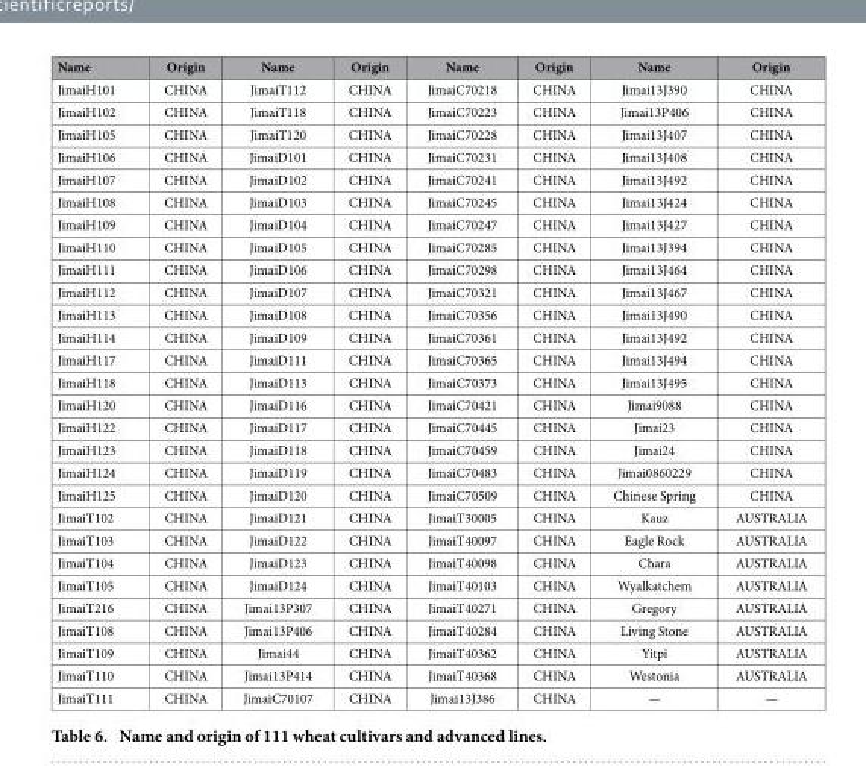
<table><thead><tr><td>Name</td><td>Origin</td><td>Name</td><td>Origin</td><td>Name</td><td>Origin</td><td>Name</td><td>Origin</td></tr></thead><tbody><tr><td>JimaiH101</td><td>CHINA</td><td>JimaiT112</td><td>CHINA</td><td>JimaiC70218</td><td>CHINA</td><td>Jimai13J390</td><td>CHINA</td></tr><tr><td>JimaiH102</td><td>CHINA</td><td>JimaiT118</td><td>CHINA</td><td>JimaiC70223</td><td>CHINA</td><td>Jimai13P406</td><td>CHINA</td></tr><tr><td>JimaiH105</td><td>CHINA</td><td>JimaiT120</td><td>CHINA</td><td>JimaiC70228</td><td>CHINA</td><td>Jimai13J407</td><td>CHINA</td></tr><tr><td>JimaiH106</td><td>CHINA</td><td>JimaiD101</td><td>CHINA</td><td>JimaiC70231</td><td>CHINA</td><td>Jimai13J408</td><td>CHINA</td></tr><tr><td>JimaiH107</td><td>CHINA</td><td>JimaiD102</td><td>CHINA</td><td>JimaiC70241</td><td>CHINA</td><td>Jimai13J492</td><td>CHINA</td></tr><tr><td>JimaiH108</td><td>CHINA</td><td>JimaiD103</td><td>CHINA</td><td>JimaiC70245</td><td>CHINA</td><td>Jimai13J424</td><td>CHINA</td></tr><tr><td>JimaiH109</td><td>CHINA</td><td>JimaiD104</td><td>CHINA</td><td>JimaiC70247</td><td>CHINA</td><td>Jimai13J427</td><td>CHINA</td></tr><tr><td>JimaiH110</td><td>CHINA</td><td>JimaiD105</td><td>CHINA</td><td>JimaiC70285</td><td>CHINA</td><td>Jimai13J394</td><td>CHINA</td></tr><tr><td>JimaiH111</td><td>CHINA</td><td>JimaiD106</td><td>CHINA</td><td>JimaiC70298</td><td>CHINA</td><td>Jimai13J464</td><td>CHINA</td></tr><tr><td>JimaiH112</td><td>CHINA</td><td>JimaiD107</td><td>CHINA</td><td>JimaiC70321</td><td>CHINA</td><td>Jimai13J467</td><td>CHINA</td></tr><tr><td>JimaiH113</td><td>CHINA</td><td>JimaiD108</td><td>CHINA</td><td>JimaiC70356</td><td>CHINA</td><td>Jimai13J490</td><td>CHINA</td></tr><tr><td>JimaiH114</td><td>CHINA</td><td>JimaiD109</td><td>CHINA</td><td>JimaiC70361</td><td>CHINA</td><td>Jimai13J492</td><td>CHINA</td></tr><tr><td>JimaiH117</td><td>CHINA</td><td>JimaiD111</td><td>CHINA</td><td>JimaiC70365</td><td>CHINA</td><td>Jimai13J494</td><td>CHINA</td></tr><tr><td>JimaiH118</td><td>CHINA</td><td>JimaiD113</td><td>CHINA</td><td>JimaiC70373</td><td>CHINA</td><td>Jimai13J495</td><td>CHINA</td></tr><tr><td>JimaiH120</td><td>CHINA</td><td>JimaiD116</td><td>CHINA</td><td>JimaiC70421</td><td>CHINA</td><td>Jimai9088</td><td>CHINA</td></tr><tr><td>JimaiH122</td><td>CHINA</td><td>JimaiD117</td><td>CHINA</td><td>JimaiC70445</td><td>CHINA</td><td>Jimai23</td><td>CHINA</td></tr><tr><td>JimaiH123</td><td>CHINA</td><td>JimaiD118</td><td>CHINA</td><td>JimaiC70459</td><td>CHINA</td><td>Jimai24</td><td>CHINA</td></tr><tr><td>JimaiH124</td><td>CHINA</td><td>JimaiD119</td><td>CHINA</td><td>JimaiC70483</td><td>CHINA</td><td>Jimai0860229</td><td>CHINA</td></tr><tr><td>JimaiH125</td><td>CHINA</td><td>JimaiD120</td><td>CHINA</td><td>JimaiC70509</td><td>CHINA</td><td>Chinese Spring</td><td>CHINA</td></tr><tr><td>JimaiT102</td><td>CHINA</td><td>JimaiD121</td><td>CHINA</td><td>JimaiT30005</td><td>CHINA</td><td>Kauz</td><td>AUSTRALIA</td></tr><tr><td>JimaiT103</td><td>CHINA</td><td>JimaiD122</td><td>CHINA</td><td>JimaiT40097</td><td>CHINA</td><td>Eagle Rock</td><td>AUSTRALIA</td></tr><tr><td>JimaiT104</td><td>CHINA</td><td>JimaiD123</td><td>CHINA</td><td>JimaiT40098</td><td>CHINA</td><td>Chara</td><td>AUSTRALIA</td></tr><tr><td>JimaiT105</td><td>CHINA</td><td>JimaiD124</td><td>CHINA</td><td>JimaiT40103</td><td>CHINA</td><td>Wyalkatchem</td><td>AUSTRALIA</td></tr><tr><td>JimaiT216</td><td>CHINA</td><td>Jimai13P307</td><td>CHINA</td><td>JimaiT40271</td><td>CHINA</td><td>Gregory</td><td>AUSTRALIA</td></tr><tr><td>JimaiT108</td><td>CHINA</td><td>Jimai13P406</td><td>CHINA</td><td>JimaiT40284</td><td>CHINA</td><td>Living Stone</td><td>AUSTRALIA</td></tr><tr><td>JimaiT109</td><td>CHINA</td><td>Jimai44</td><td>CHINA</td><td>JimaiT40362</td><td>CHINA</td><td>Yitpi</td><td>AUSTRALIA</td></tr><tr><td>JimaiT110</td><td>CHINA</td><td>Jimai13P414</td><td>CHINA</td><td>JimaiT40368</td><td>CHINA</td><td>Westonia</td><td>AUSTRALIA</td></tr><tr><td>JimaiT111</td><td>CHINA</td><td>JimaiC70107</td><td>CHINA</td><td>Jimai13J386</td><td>CHINA</td><td>—</td><td>—</td></tr></tbody></table>